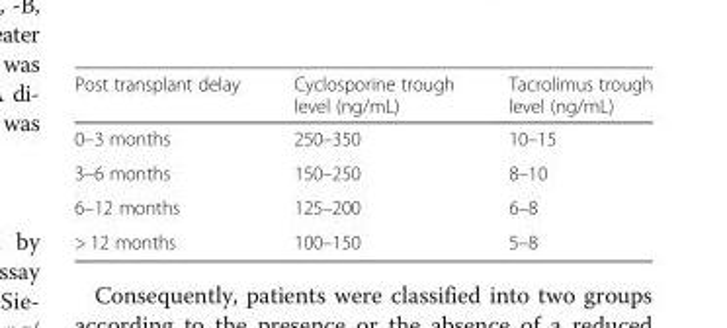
<table><thead><tr><td>Post transplant delay</td><td>Cyclosporine trough level (ng/mL)</td><td>Tacrolimus trough level (ng/mL)</td></tr></thead><tbody><tr><td>0–3 months</td><td>250–350</td><td>10–15</td></tr><tr><td>3–6 months</td><td>150–250</td><td>8–10</td></tr><tr><td>6–12 months</td><td>125–200</td><td>6–8</td></tr><tr><td>&gt; 12 months</td><td>100–150</td><td>5–8</td></tr></tbody></table>